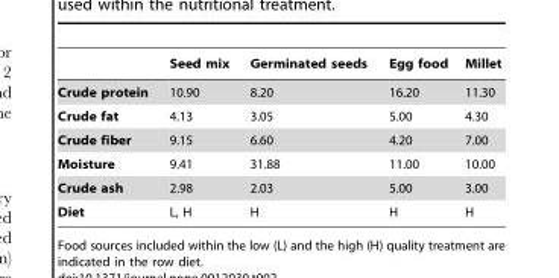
<table><thead><tr><td></td><td>Seed mix</td><td>Germinated seeds</td><td>Egg food</td><td>Millet</td></tr></thead><tbody><tr><td>Crude protein</td><td>10.90</td><td>8.20</td><td>16.20</td><td>11.30</td></tr><tr><td>Crude fat</td><td>4.13</td><td>3.05</td><td>5.00</td><td>4.30</td></tr><tr><td>Crude fiber</td><td>9.15</td><td>6.60</td><td>4.20</td><td>7.00</td></tr><tr><td>Moisture</td><td>9.41</td><td>31.88</td><td>11.00</td><td>10.00</td></tr><tr><td>Crude ash</td><td>2.98</td><td>2.03</td><td>5.00</td><td>3.00</td></tr><tr><td>Diet</td><td>L, H</td><td>H</td><td>H</td><td>H</td></tr></tbody></table>